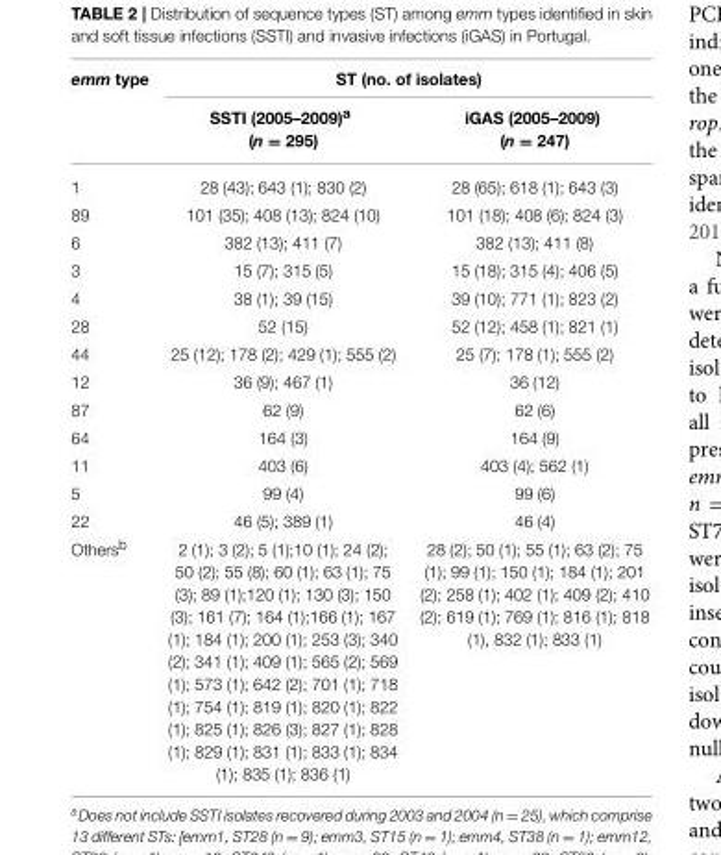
<table><thead><tr><td rowspan="2">emm type</td><td colspan="2">ST (no. of isolates)</td></tr><tr><td>SSTI (2005–2009)<sup>a</sup> (n = 295)</td><td>iGAS (2005–2009) (n = 247)</td></tr></thead><tbody><tr><td>1</td><td>28 (43); 643 (1); 830 (2)</td><td>28 (65); 618 (1); 643 (3)</td></tr><tr><td>89</td><td>101 (35); 408 (13); 824 (10)</td><td>101 (18); 408 (6); 824 (3)</td></tr><tr><td>6</td><td>382 (13); 411 (7)</td><td>382 (13); 411 (8)</td></tr><tr><td>3</td><td>15 (7); 315 (5)</td><td>15 (18); 315 (4); 406 (5)</td></tr><tr><td>4</td><td>38 (1); 39 (15)</td><td>39 (10); 771 (1); 823 (2)</td></tr><tr><td>28</td><td>52 (15)</td><td>52 (12); 458 (1); 821 (1)</td></tr><tr><td>44</td><td>25 (12); 178 (2); 429 (1); 555 (2)</td><td>25 (7); 178 (1); 555 (2)</td></tr><tr><td>12</td><td>36 (9); 467 (1)</td><td>36 (12)</td></tr><tr><td>87</td><td>62 (9)</td><td>62 (6)</td></tr><tr><td>64</td><td>164 (3)</td><td>164 (9)</td></tr><tr><td>11</td><td>403 (6)</td><td>403 (4); 562 (1)</td></tr><tr><td>5</td><td>99 (4)</td><td>99 (6)</td></tr><tr><td>22</td><td>46 (5); 389 (1)</td><td>46 (4)</td></tr><tr><td>Others<sup>b</sup></td><td>2 (1); 3 (2); 5 (1);10 (1); 24 (2); 50 (2); 55 (8); 60 (1); 63 (1); 75 (3); 89 (1);120 (1); 130 (3); 150 (3); 161 (7); 164 (1);166 (1); 167 (1); 184 (1); 200 (1); 253 (3); 340 (2); 341 (1); 409 (1); 565 (2); 569 (1); 573 (1); 642 (2); 701 (1); 718 (1); 754 (1); 819 (1); 820 (1); 822 (1); 825 (1); 826 (3); 827 (1); 828 (1); 829 (1); 831 (1); 833 (1); 834 (1); 835 (1); 836 (1)</td><td>28 (2); 50 (1); 55 (1); 63 (2); 75 (1); 99 (1); 150 (1); 184 (1); 201 (2); 258 (1); 402 (1); 409 (2); 410 (2); 619 (1); 769 (1); 816 (1); 818 (1), 832 (1); 833 (1)</td></tr></tbody></table>